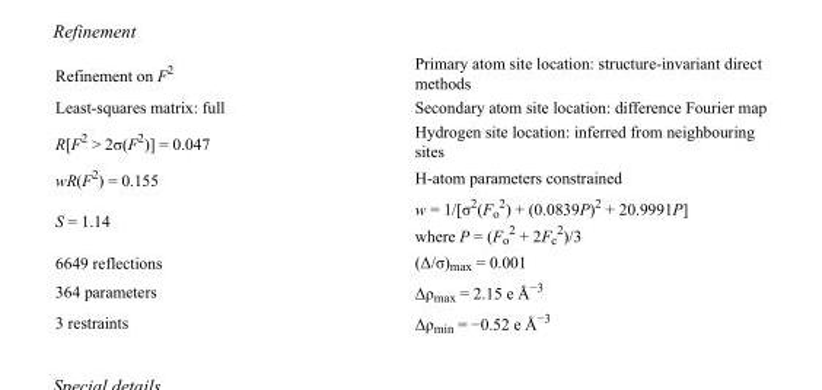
<table><tbody><tr><td>Refinement on F<sup>2</sup></td><td>Primary atom site location: structure-invariant direct methods</td></tr><tr><td>Least-squares matrix: full</td><td>Secondary atom site location: difference Fourier map</td></tr><tr><td>R[F<sup>2</sup> &gt; 2σ(F<sup>2</sup>)] = 0.047</td><td>Hydrogen site location: inferred from neighbouring sites</td></tr><tr><td>wR(F<sup>2</sup>) = 0.155</td><td>H-atom parameters constrained</td></tr><tr><td>S = 1.14</td><td>w = 1/[σ<sup>2</sup>(F<sub>o</sub> <sup>2</sup>) + (0.0839P)<sup>2</sup> + 20.9991P] where P = (F<sub>o</sub> <sup>2</sup> + 2F<sub>c</sub> <sup>2</sup>)/3</td></tr><tr><td>6649 reflections</td><td>(Δ/σ)<sub>max</sub> = 0.001</td></tr><tr><td>364 parameters</td><td>Δρ<sub>max</sub> = 2.15 e Å<sup>−3</sup></td></tr><tr><td>3 restraints</td><td>Δρ<sub>min</sub> = −0.52 e Å<sup>−3</sup></td></tr></tbody></table>